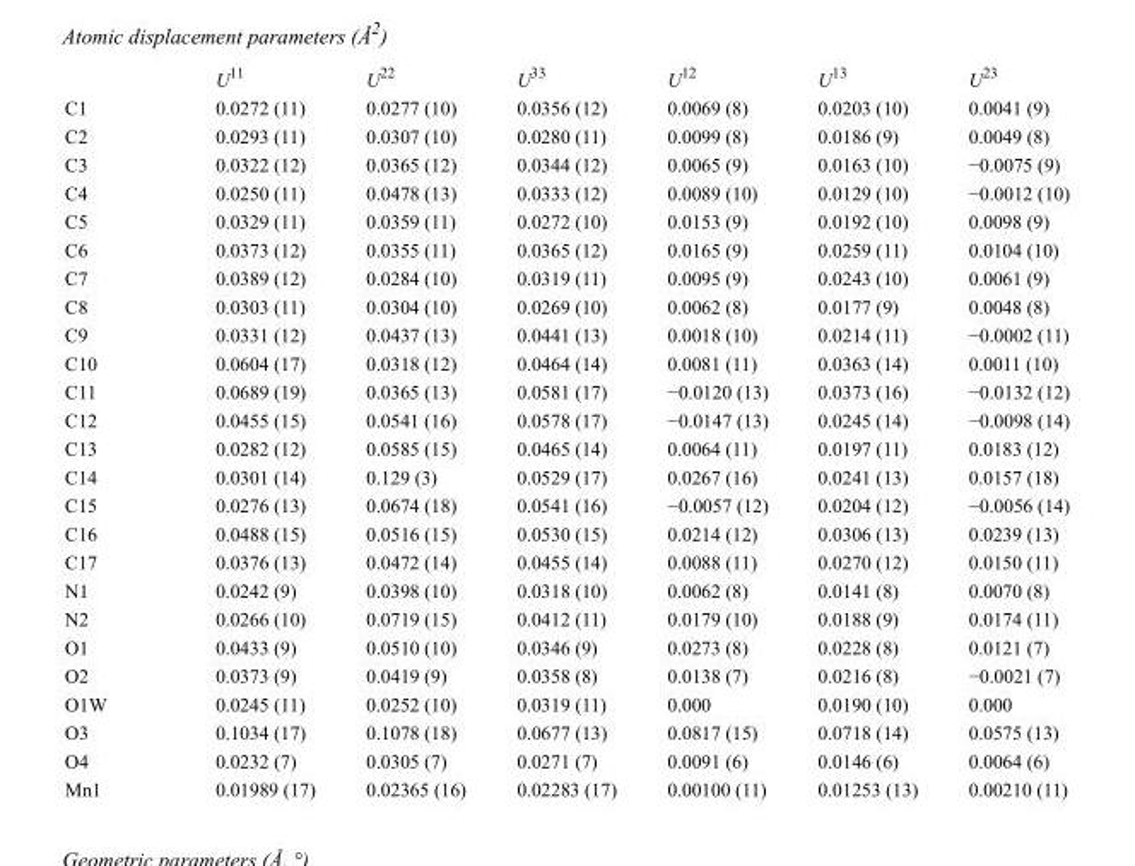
<table><thead><tr><td></td><td>U<sup>11</sup></td><td>U<sup>22</sup></td><td>U<sup>33</sup></td><td>U<sup>12</sup></td><td>U<sup>13</sup></td><td>U<sup>23</sup></td></tr></thead><tbody><tr><td>C1</td><td>0.0272 (11)</td><td>0.0277 (10)</td><td>0.0356 (12)</td><td>0.0069 (8)</td><td>0.0203 (10)</td><td>0.0041 (9)</td></tr><tr><td>C2</td><td>0.0293 (11)</td><td>0.0307 (10)</td><td>0.0280 (11)</td><td>0.0099 (8)</td><td>0.0186 (9)</td><td>0.0049 (8)</td></tr><tr><td>C3</td><td>0.0322 (12)</td><td>0.0365 (12)</td><td>0.0344 (12)</td><td>0.0065 (9)</td><td>0.0163 (10)</td><td>−0.0075 (9)</td></tr><tr><td>C4</td><td>0.0250 (11)</td><td>0.0478 (13)</td><td>0.0333 (12)</td><td>0.0089 (10)</td><td>0.0129 (10)</td><td>−0.0012 (10)</td></tr><tr><td>C5</td><td>0.0329 (11)</td><td>0.0359 (11)</td><td>0.0272 (10)</td><td>0.0153 (9)</td><td>0.0192 (10)</td><td>0.0098 (9)</td></tr><tr><td>C6</td><td>0.0373 (12)</td><td>0.0355 (11)</td><td>0.0365 (12)</td><td>0.0165 (9)</td><td>0.0259 (11)</td><td>0.0104 (10)</td></tr><tr><td>C7</td><td>0.0389 (12)</td><td>0.0284 (10)</td><td>0.0319 (11)</td><td>0.0095 (9)</td><td>0.0243 (10)</td><td>0.0061 (9)</td></tr><tr><td>C8</td><td>0.0303 (11)</td><td>0.0304 (10)</td><td>0.0269 (10)</td><td>0.0062 (8)</td><td>0.0177 (9)</td><td>0.0048 (8)</td></tr><tr><td>C9</td><td>0.0331 (12)</td><td>0.0437 (13)</td><td>0.0441 (13)</td><td>0.0018 (10)</td><td>0.0214 (11)</td><td>−0.0002 (11)</td></tr><tr><td>C10</td><td>0.0604 (17)</td><td>0.0318 (12)</td><td>0.0464 (14)</td><td>0.0081 (11)</td><td>0.0363 (14)</td><td>0.0011 (10)</td></tr><tr><td>C11</td><td>0.0689 (19)</td><td>0.0365 (13)</td><td>0.0581 (17)</td><td>−0.0120 (13)</td><td>0.0373 (16)</td><td>−0.0132 (12)</td></tr><tr><td>C12</td><td>0.0455 (15)</td><td>0.0541 (16)</td><td>0.0578 (17)</td><td>−0.0147 (13)</td><td>0.0245 (14)</td><td>−0.0098 (14)</td></tr><tr><td>C13</td><td>0.0282 (12)</td><td>0.0585 (15)</td><td>0.0465 (14)</td><td>0.0064 (11)</td><td>0.0197 (11)</td><td>0.0183 (12)</td></tr><tr><td>C14</td><td>0.0301 (14)</td><td>0.129 (3)</td><td>0.0529 (17)</td><td>0.0267 (16)</td><td>0.0241 (13)</td><td>0.0157 (18)</td></tr><tr><td>C15</td><td>0.0276 (13)</td><td>0.0674 (18)</td><td>0.0541 (16)</td><td>−0.0057 (12)</td><td>0.0204 (12)</td><td>−0.0056 (14)</td></tr><tr><td>C16</td><td>0.0488 (15)</td><td>0.0516 (15)</td><td>0.0530 (15)</td><td>0.0214 (12)</td><td>0.0306 (13)</td><td>0.0239 (13)</td></tr><tr><td>C17</td><td>0.0376 (13)</td><td>0.0472 (14)</td><td>0.0455 (14)</td><td>0.0088 (11)</td><td>0.0270 (12)</td><td>0.0150 (11)</td></tr><tr><td>N1</td><td>0.0242 (9)</td><td>0.0398 (10)</td><td>0.0318 (10)</td><td>0.0062 (8)</td><td>0.0141 (8)</td><td>0.0070 (8)</td></tr><tr><td>N2</td><td>0.0266 (10)</td><td>0.0719 (15)</td><td>0.0412 (11)</td><td>0.0179 (10)</td><td>0.0188 (9)</td><td>0.0174 (11)</td></tr><tr><td>O1</td><td>0.0433 (9)</td><td>0.0510 (10)</td><td>0.0346 (9)</td><td>0.0273 (8)</td><td>0.0228 (8)</td><td>0.0121 (7)</td></tr><tr><td>O2</td><td>0.0373 (9)</td><td>0.0419 (9)</td><td>0.0358 (8)</td><td>0.0138 (7)</td><td>0.0216 (8)</td><td>−0.0021 (7)</td></tr><tr><td>O1W</td><td>0.0245 (11)</td><td>0.0252 (10)</td><td>0.0319 (11)</td><td>0.000</td><td>0.0190 (10)</td><td>0.000</td></tr><tr><td>O3</td><td>0.1034 (17)</td><td>0.1078 (18)</td><td>0.0677 (13)</td><td>0.0817 (15)</td><td>0.0718 (14)</td><td>0.0575 (13)</td></tr><tr><td>O4</td><td>0.0232 (7)</td><td>0.0305 (7)</td><td>0.0271 (7)</td><td>0.0091 (6)</td><td>0.0146 (6)</td><td>0.0064 (6)</td></tr><tr><td>Mn1</td><td>0.01989 (17)</td><td>0.02365 (16)</td><td>0.02283 (17)</td><td>0.00100 (11)</td><td>0.01253 (13)</td><td>0.00210 (11)</td></tr></tbody></table>